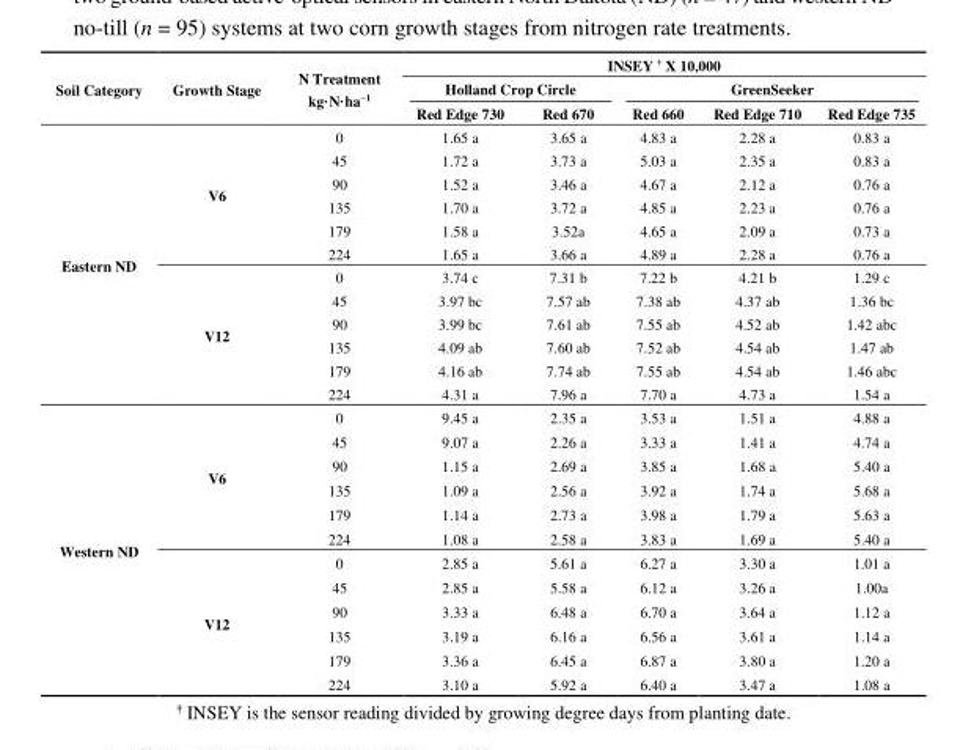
<table><thead><tr><td rowspan="3">Soil Category</td><td rowspan="3">Growth Stage</td><td rowspan="3">N Treatment kg·N·ha<sup>−1</sup></td><td colspan="5">INSEY <sup>†</sup> X 10,000</td></tr><tr><td colspan="2">Holland Crop Circle</td><td colspan="3">GreenSeeker</td></tr><tr><td>Red Edge 730</td><td>Red 670</td><td>Red 660</td><td>Red Edge 710</td><td>Red Edge 735</td></tr></thead><tbody><tr><td rowspan="12">Eastern ND</td><td rowspan="6">V6</td><td>0</td><td>1.65 a</td><td>3.65 a</td><td>4.83 a</td><td>2.28 a</td><td>0.83 a</td></tr><tr><td>45</td><td>1.72 a</td><td>3.73 a</td><td>5.03 a</td><td>2.35 a</td><td>0.83 a</td></tr><tr><td>90</td><td>1.52 a</td><td>3.46 a</td><td>4.67 a</td><td>2.12 a</td><td>0.76 a</td></tr><tr><td>135</td><td>1.70 a</td><td>3.72 a</td><td>4.85 a</td><td>2.23 a</td><td>0.76 a</td></tr><tr><td>179</td><td>1.58 a</td><td>3.52a</td><td>4.65 a</td><td>2.09 a</td><td>0.73 a</td></tr><tr><td>224</td><td>1.65 a</td><td>3.66 a</td><td>4.89 a</td><td>2.28 a</td><td>0.76 a</td></tr><tr><td rowspan="6">V12</td><td>0</td><td>3.74 c</td><td>7.31 b</td><td>7.22 b</td><td>4.21 b</td><td>1.29 c</td></tr><tr><td>45</td><td>3.97 bc</td><td>7.57 ab</td><td>7.38 ab</td><td>4.37 ab</td><td>1.36 bc</td></tr><tr><td>90</td><td>3.99 bc</td><td>7.61 ab</td><td>7.55 ab</td><td>4.52 ab</td><td>1.42 abc</td></tr><tr><td>135</td><td>4.09 ab</td><td>7.60 ab</td><td>7.52 ab</td><td>4.54 ab</td><td>1.47 ab</td></tr><tr><td>179</td><td>4.16 ab</td><td>7.74 ab</td><td>7.55 ab</td><td>4.54 ab</td><td>1.46 abc</td></tr><tr><td>224</td><td>4.31 a</td><td>7.96 a</td><td>7.70 a</td><td>4.73 a</td><td>1.54 a</td></tr><tr><td rowspan="12">Western ND</td><td rowspan="6">V6</td><td>0</td><td>9.45 a</td><td>2.35 a</td><td>3.53 a</td><td>1.51 a</td><td>4.88 a</td></tr><tr><td>45</td><td>9.07 a</td><td>2.26 a</td><td>3.33 a</td><td>1.41 a</td><td>4.74 a</td></tr><tr><td>90</td><td>1.15 a</td><td>2.69 a</td><td>3.85 a</td><td>1.68 a</td><td>5.40 a</td></tr><tr><td>135</td><td>1.09 a</td><td>2.56 a</td><td>3.92 a</td><td>1.74 a</td><td>5.68 a</td></tr><tr><td>179</td><td>1.14 a</td><td>2.73 a</td><td>3.98 a</td><td>1.79 a</td><td>5.63 a</td></tr><tr><td>224</td><td>1.08 a</td><td>2.58 a</td><td>3.83 a</td><td>1.69 a</td><td>5.40 a</td></tr><tr><td rowspan="6">V12</td><td>0</td><td>2.85 a</td><td>5.61 a</td><td>6.27 a</td><td>3.30 a</td><td>1.01 a</td></tr><tr><td>45</td><td>2.85 a</td><td>5.58 a</td><td>6.12 a</td><td>3.26 a</td><td>1.00a</td></tr><tr><td>90</td><td>3.33 a</td><td>6.48 a</td><td>6.70 a</td><td>3.64 a</td><td>1.12 a</td></tr><tr><td>135</td><td>3.19 a</td><td>6.16 a</td><td>6.56 a</td><td>3.61 a</td><td>1.14 a</td></tr><tr><td>179</td><td>3.36 a</td><td>6.45 a</td><td>6.87 a</td><td>3.80 a</td><td>1.20 a</td></tr><tr><td>224</td><td>3.10 a</td><td>5.92 a</td><td>6.40 a</td><td>3.47 a</td><td>1.08 a</td></tr></tbody></table>